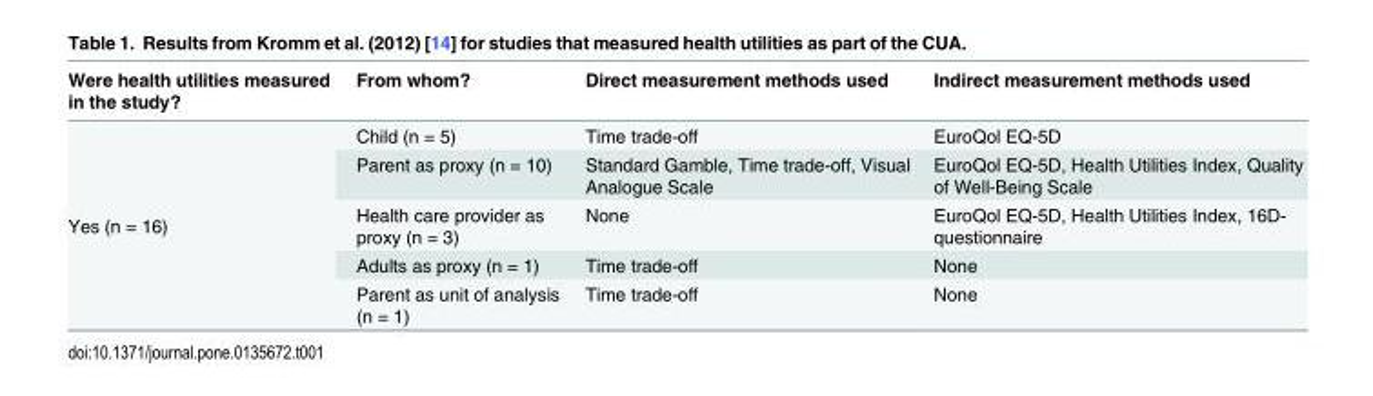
<table><thead><tr><td>Were health utilities measured in the study?</td><td>From whom?</td><td>Direct measurement methods used</td><td>Indirect measurement methods used</td></tr></thead><tbody><tr><td rowspan="5">Yes (n = 16)</td><td>Child (n = 5)</td><td>Time trade-off</td><td>EuroQol EQ-5D</td></tr><tr><td>Parent as proxy (n = 10)</td><td>Standard Gamble, Time trade-off, Visual Analogue Scale</td><td>EuroQol EQ-5D, Health Utilities Index, Quality of Well-Being Scale</td></tr><tr><td>Health care provider as proxy (n = 3)</td><td>None</td><td>EuroQol EQ-5D, Health Utilities Index, 16D- questionnaire</td></tr><tr><td>Adults as proxy (n = 1)</td><td>Time trade-off</td><td>None</td></tr><tr><td>Parent as unit of analysis (n = 1)</td><td>Time trade-off</td><td>None</td></tr></tbody></table>